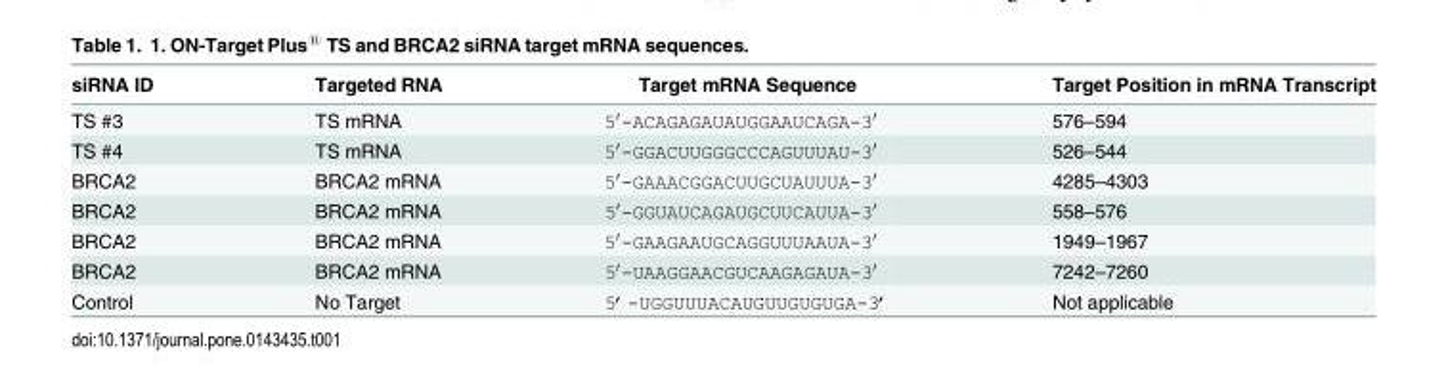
<table><thead><tr><td>siRNA ID</td><td>Targeted RNA</td><td>Target mRNA Sequence</td><td>Target Position in mRNA Transcript</td></tr></thead><tbody><tr><td>TS #3</td><td>TS mRNA</td><td>5′-ACAGAGAUAUGGAAUCAGA-3′</td><td>576–594</td></tr><tr><td>TS #4</td><td>TS mRNA</td><td>5′-GGACUUGGGCCCAGUUUAU-3′</td><td>526–544</td></tr><tr><td>BRCA2</td><td>BRCA2 mRNA</td><td>5′-GAAACGGACUUGCUAUUUA-3′</td><td>4285–4303</td></tr><tr><td>BRCA2</td><td>BRCA2 mRNA</td><td>5′-GGUAUCAGAUGCUUCAUUA-3′</td><td>558–576</td></tr><tr><td>BRCA2</td><td>BRCA2 mRNA</td><td>5′-GAAGAAUGCAGGUUUAAUA-3′</td><td>1949–1967</td></tr><tr><td>BRCA2</td><td>BRCA2 mRNA</td><td>5′-UAAGGAACGUCAAGAGAUA-3′</td><td>7242–7260</td></tr><tr><td>Control</td><td>No Target</td><td>5’-UGGUUUACAUGUUGUGUGA-3’</td><td>Not applicable</td></tr></tbody></table>